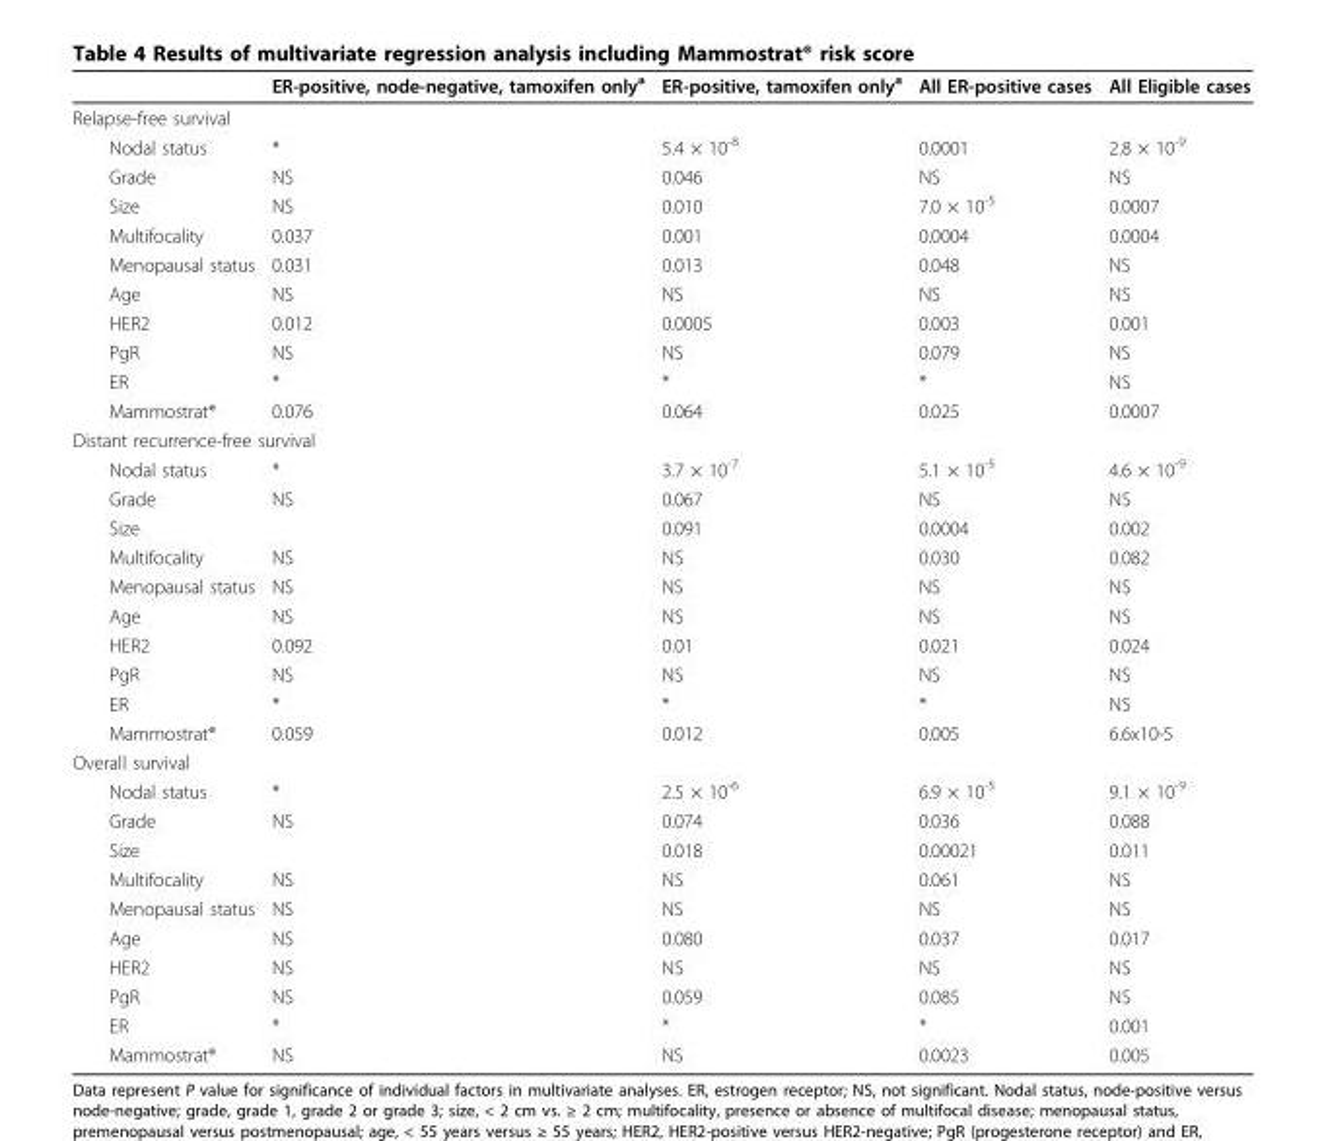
<table><thead><tr><td></td><td>ER-positive, node-negative, tamoxifen only<sup>a</sup></td><td>ER-positive, tamoxifen only<sup>a</sup></td><td>All ER-positive cases</td><td>All Eligible cases</td></tr></thead><tbody><tr><td colspan="5">Relapse-free survival</td></tr><tr><td>Nodal status</td><td>*</td><td>5.4 × 10<sup>-8</sup></td><td>0.0001</td><td>2.8 × 10<sup>-9</sup></td></tr><tr><td>Grade</td><td>NS</td><td>0.046</td><td>NS</td><td>NS</td></tr><tr><td>Size</td><td>NS</td><td>0.010</td><td>7.0 × 10<sup>-5</sup></td><td>0.0007</td></tr><tr><td>Multifocality</td><td>0.037</td><td>0.001</td><td>0.0004</td><td>0.0004</td></tr><tr><td>Menopausal status</td><td>0.031</td><td>0.013</td><td>0.048</td><td>NS</td></tr><tr><td>Age</td><td>NS</td><td>NS</td><td>NS</td><td>NS</td></tr><tr><td>HER2</td><td>0.012</td><td>0.0005</td><td>0.003</td><td>0.001</td></tr><tr><td>PgR</td><td>NS</td><td>NS</td><td>0.079</td><td>NS</td></tr><tr><td>ER</td><td>*</td><td>*</td><td>*</td><td>NS</td></tr><tr><td>Mammostrat<sup>®</sup></td><td>0.076</td><td>0.064</td><td>0.025</td><td>0.0007</td></tr><tr><td colspan="5">Distant recurrence-free survival</td></tr><tr><td>Nodal status</td><td>*</td><td>3.7 × 10<sup>-7</sup></td><td>5.1 × 10<sup>-5</sup></td><td>4.6 × 10<sup>-9</sup></td></tr><tr><td>Grade</td><td>NS</td><td>0.067</td><td>NS</td><td>NS</td></tr><tr><td>Size</td><td></td><td>0.091</td><td>0.0004</td><td>0.002</td></tr><tr><td>Multifocality</td><td>NS</td><td>NS</td><td>0.030</td><td>0.082</td></tr><tr><td>Menopausal status</td><td>NS</td><td>NS</td><td>NS</td><td>NS</td></tr><tr><td>Age</td><td>NS</td><td>NS</td><td>NS</td><td>NS</td></tr><tr><td>HER2</td><td>0.092</td><td>0.01</td><td>0.021</td><td>0.024</td></tr><tr><td>PgR</td><td>NS</td><td>NS</td><td>NS</td><td>NS</td></tr><tr><td>ER</td><td>*</td><td>*</td><td>*</td><td>NS</td></tr><tr><td>Mammostrat<sup>®</sup></td><td>0.059</td><td>0.012</td><td>0.005</td><td>6.6x10-5</td></tr><tr><td colspan="5">Overall survival</td></tr><tr><td>Nodal status</td><td>*</td><td>2.5 × 10<sup>-6</sup></td><td>6.9 × 10<sup>-5</sup></td><td>9.1 × 10<sup>-9</sup></td></tr><tr><td>Grade</td><td>NS</td><td>0.074</td><td>0.036</td><td>0.088</td></tr><tr><td>Size</td><td></td><td>0.018</td><td>0.00021</td><td>0.011</td></tr><tr><td>Multifocality</td><td>NS</td><td>NS</td><td>0.061</td><td>NS</td></tr><tr><td>Menopausal status</td><td>NS</td><td>NS</td><td>NS</td><td>NS</td></tr><tr><td>Age</td><td>NS</td><td>0.080</td><td>0.037</td><td>0.017</td></tr><tr><td>HER2</td><td>NS</td><td>NS</td><td>NS</td><td>NS</td></tr><tr><td>PgR</td><td>NS</td><td>0.059</td><td>0.085</td><td>NS</td></tr><tr><td>ER</td><td>*</td><td>*</td><td>*</td><td>0.001</td></tr><tr><td>Mammostrat<sup>®</sup></td><td>NS</td><td>NS</td><td>0.0023</td><td>0.005</td></tr></tbody></table>